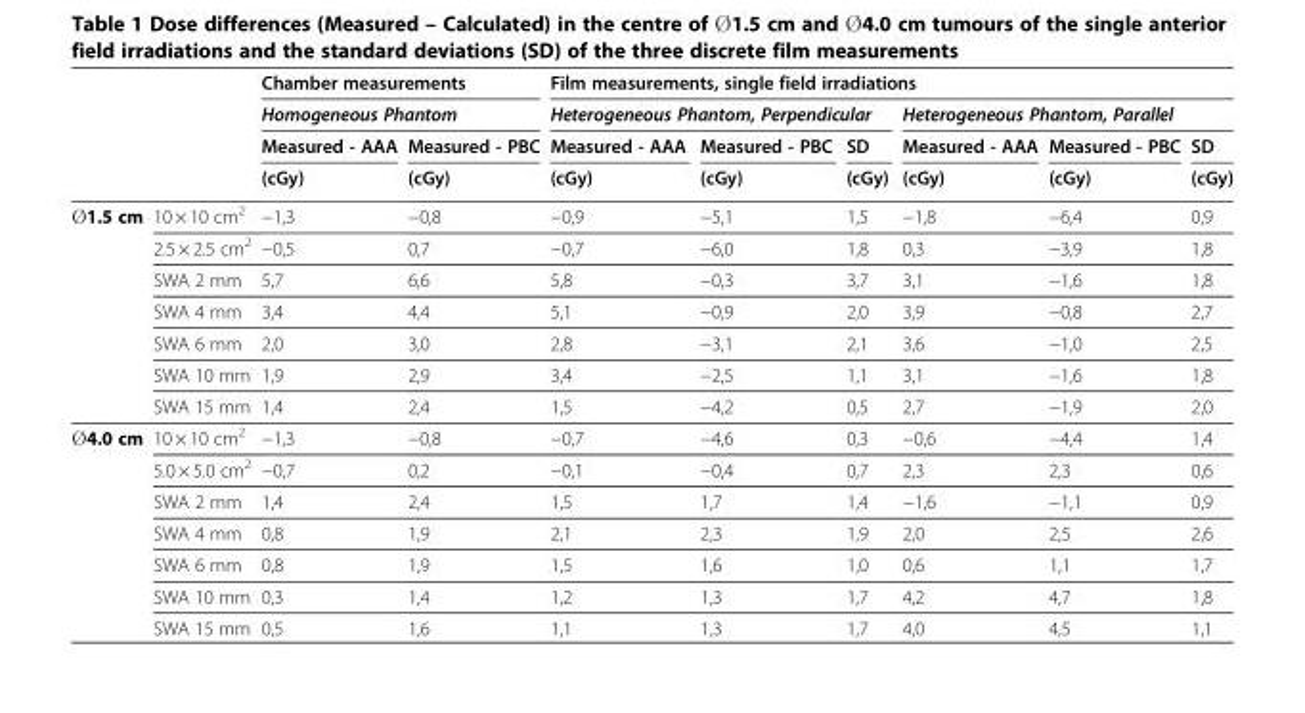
<table><thead><tr><td rowspan="4"></td><td rowspan="4"></td><td rowspan="2" colspan="2">Chamber measurements Homogeneous Phantom</td><td colspan="6">Film measurements, single field irradiations</td></tr><tr><td colspan="3">Heterogeneous Phantom, Perpendicular</td><td colspan="3">Heterogeneous Phantom, Parallel</td></tr><tr><td rowspan="2">Measured - AAA (cGy)</td><td rowspan="2">Measured - PBC (cGy)</td><td rowspan="2">Measured - AAA (cGy)</td><td rowspan="2">Measured - PBC (cGy)</td><td rowspan="2">SD (cGy)</td><td rowspan="2">Measured - AAA (cGy)</td><td rowspan="2">Measured - PBC (cGy)</td><td rowspan="2">SD (cGy)</td></tr><tr></tr></thead><tbody><tr><td rowspan="7">Ø1.5 cm</td><td>10 × 10 cm<sup>2</sup></td><td>−1,3</td><td>−0,8</td><td>−0,9</td><td>−5,1</td><td>1,5</td><td>−1,8</td><td>−6,4</td><td>0,9</td></tr><tr><td>2.5 × 2.5 cm<sup>2</sup></td><td>−0,5</td><td>0,7</td><td>−0,7</td><td>−6,0</td><td>1,8</td><td>0,3</td><td>−3,9</td><td>1,8</td></tr><tr><td>SWA 2 mm</td><td>5,7</td><td>6,6</td><td>5,8</td><td>−0,3</td><td>3,7</td><td>3,1</td><td>−1,6</td><td>1,8</td></tr><tr><td>SWA 4 mm</td><td>3,4</td><td>4,4</td><td>5,1</td><td>−0,9</td><td>2,0</td><td>3,9</td><td>−0,8</td><td>2,7</td></tr><tr><td>SWA 6 mm</td><td>2,0</td><td>3,0</td><td>2,8</td><td>−3,1</td><td>2,1</td><td>3,6</td><td>−1,0</td><td>2,5</td></tr><tr><td>SWA 10 mm</td><td>1,9</td><td>2,9</td><td>3,4</td><td>−2,5</td><td>1,1</td><td>3,1</td><td>−1,6</td><td>1,8</td></tr><tr><td>SWA 15 mm</td><td>1,4</td><td>2,4</td><td>1,5</td><td>−4,2</td><td>0,5</td><td>2,7</td><td>−1,9</td><td>2,0</td></tr><tr><td rowspan="7">Ø4.0 cm</td><td>10 × 10 cm<sup>2</sup></td><td>−1,3</td><td>−0,8</td><td>−0,7</td><td>−4,6</td><td>0,3</td><td>−0,6</td><td>−4,4</td><td>1,4</td></tr><tr><td>5.0 × 5.0 cm<sup>2</sup></td><td>−0,7</td><td>0,2</td><td>−0,1</td><td>−0,4</td><td>0,7</td><td>2,3</td><td>2,3</td><td>0,6</td></tr><tr><td>SWA 2 mm</td><td>1,4</td><td>2,4</td><td>1,5</td><td>1,7</td><td>1,4</td><td>−1,6</td><td>−1,1</td><td>0,9</td></tr><tr><td>SWA 4 mm</td><td>0,8</td><td>1,9</td><td>2,1</td><td>2,3</td><td>1,9</td><td>2,0</td><td>2,5</td><td>2,6</td></tr><tr><td>SWA 6 mm</td><td>0,8</td><td>1,9</td><td>1,5</td><td>1,6</td><td>1,0</td><td>0,6</td><td>1,1</td><td>1,7</td></tr><tr><td>SWA 10 mm</td><td>0,3</td><td>1,4</td><td>1,2</td><td>1,3</td><td>1,7</td><td>4,2</td><td>4,7</td><td>1,8</td></tr><tr><td>SWA 15 mm</td><td>0,5</td><td>1,6</td><td>1,1</td><td>1,3</td><td>1,7</td><td>4,0</td><td>4,5</td><td>1,1</td></tr></tbody></table>